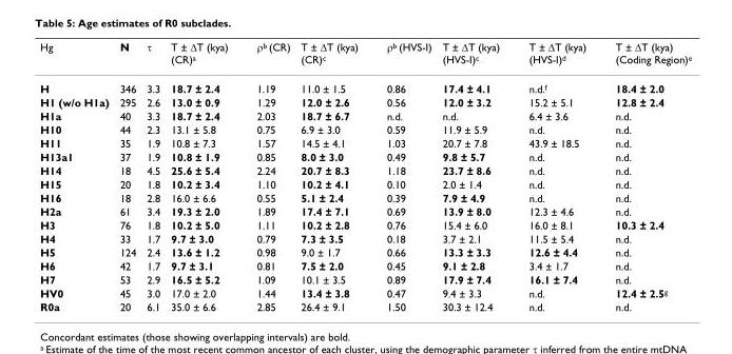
<table><thead><tr><td>Hg</td><td>N</td><td>τ</td><td>T ± ΔT (kya) (CR)<sup>a</sup></td><td>ρ<sup>b</sup> (CR)</td><td>T ± ΔT (kya) (CR)<sup>c</sup></td><td>ρ<sup>b</sup> (HVS-I)</td><td>T ± ΔT (kya) (HVS-I)<sup>c</sup></td><td>T ± ΔT (kya) (HVS-I)<sup>d</sup></td><td>T ± ΔT (kya) (Coding Region)<sup>e</sup></td></tr></thead><tbody><tr><td>H</td><td>346</td><td>3.3</td><td>18.7 ± 2.4</td><td>1.19</td><td>11.0 ± 1.5</td><td>0.86</td><td>17.4 ± 4.1</td><td>n.d.<sup>f</sup></td><td>18.4 ± 2.0</td></tr><tr><td>H1 (w/o H1a)</td><td>295</td><td>2.6</td><td>13.0 ± 0.9</td><td>1.29</td><td>12.0 ± 2.6</td><td>0.56</td><td>12.0 ± 3.2</td><td>15.2 ± 5.1</td><td>12.8 ± 2.4</td></tr><tr><td>H1a</td><td>40</td><td>3.3</td><td>18.7 ± 2.4</td><td>2.03</td><td>18.7 ± 6.7</td><td>n.d.</td><td>n.d.</td><td>6.4 ± 3.6</td><td>n.d.</td></tr><tr><td>H10</td><td>44</td><td>2.3</td><td>13.1 ± 5.8</td><td>0.75</td><td>6.9 ± 3.0</td><td>0.59</td><td>11.9 ± 5.9</td><td>n.d.</td><td>n.d.</td></tr><tr><td>H11</td><td>35</td><td>1.9</td><td>10.8 ± 7.3</td><td>1.57</td><td>14.5 ± 4.1</td><td>1.03</td><td>20.7 ± 7.8</td><td>43.9 ± 18.5</td><td>n.d.</td></tr><tr><td>H13a1</td><td>37</td><td>1.9</td><td>10.8 ± 1.9</td><td>0.85</td><td>8.0 ± 3.0</td><td>0.49</td><td>9.8 ± 5.7</td><td>n.d.</td><td>n.d.</td></tr><tr><td>H14</td><td>18</td><td>4.5</td><td>25.6 ± 5.4</td><td>2.24</td><td>20.7 ± 8.3</td><td>1.18</td><td>23.7 ± 8.6</td><td>n.d.</td><td>n.d.</td></tr><tr><td>H15</td><td>20</td><td>1.8</td><td>10.2 ± 3.4</td><td>1.10</td><td>10.2 ± 4.1</td><td>0.10</td><td>2.0 ± 1.4</td><td>n.d.</td><td>n.d.</td></tr><tr><td>H16</td><td>18</td><td>2.8</td><td>16.0 ± 6.6</td><td>0.55</td><td>5.1 ± 2.4</td><td>0.39</td><td>7.9 ± 4.9</td><td>n.d.</td><td>n.d.</td></tr><tr><td>H2a</td><td>61</td><td>3.4</td><td>19.3 ± 2.0</td><td>1.89</td><td>17.4 ± 7.1</td><td>0.69</td><td>13.9 ± 8.0</td><td>12.3 ± 4.6</td><td>n.d.</td></tr><tr><td>H3</td><td>76</td><td>1.8</td><td>10.2 ± 5.0</td><td>1.11</td><td>10.2 ± 2.8</td><td>0.76</td><td>15.4 ± 6.0</td><td>16.0 ± 8.1</td><td>10.3 ± 2.4</td></tr><tr><td>H4</td><td>33</td><td>1.7</td><td>9.7 ± 3.0</td><td>0.79</td><td>7.3 ± 3.5</td><td>0.18</td><td>3.7 ± 2.1</td><td>11.5 ± 5.4</td><td>n.d.</td></tr><tr><td>H5</td><td>124</td><td>2.4</td><td>13.6 ± 1.2</td><td>0.98</td><td>9.0 ± 1.7</td><td>0.66</td><td>13.3 ± 3.3</td><td>12.6 ± 4.4</td><td>n.d.</td></tr><tr><td>H6</td><td>42</td><td>1.7</td><td>9.7 ± 3.1</td><td>0.81</td><td>7.5 ± 2.0</td><td>0.45</td><td>9.1 ± 2.8</td><td>3.4 ± 1.7</td><td>n.d.</td></tr><tr><td>H7</td><td>53</td><td>2.9</td><td>16.5 ± 5.2</td><td>1.09</td><td>10.1 ± 3.5</td><td>0.89</td><td>17.9 ± 7.4</td><td>16.1 ± 7.4</td><td>n.d.</td></tr><tr><td>HV0</td><td>45</td><td>3.0</td><td>17.0 ± 2.0</td><td>1.44</td><td>13.4 ± 3.8</td><td>0.47</td><td>9.4 ± 3.3</td><td>n.d.</td><td>12.4 ± 2.5<sup>g</sup></td></tr><tr><td>R0a</td><td>20</td><td>6.1</td><td>35.0 ± 6.6</td><td>2.85</td><td>26.4 ± 9.1</td><td>1.50</td><td>30.3 ± 12.4</td><td>n.d.</td><td>n.d.</td></tr></tbody></table>